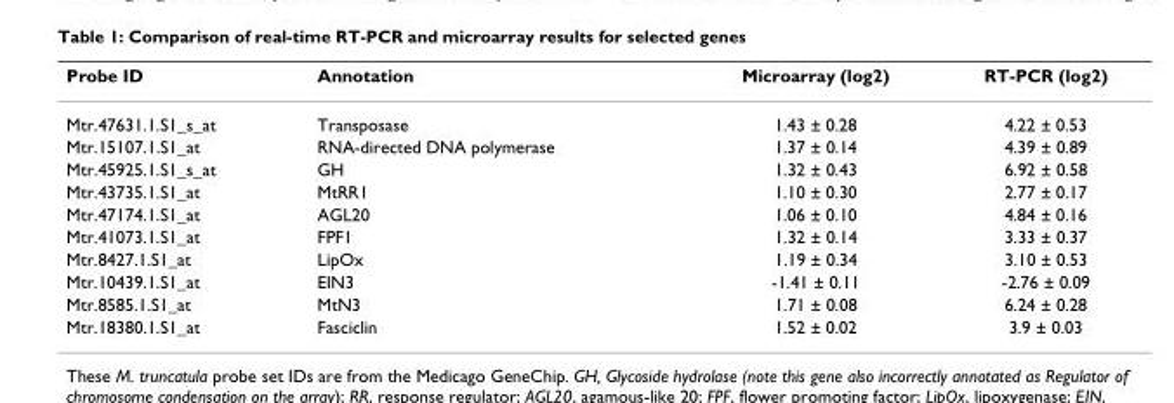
<table><thead><tr><td>Probe ID</td><td>Annotation</td><td>Microarray (log2)</td><td>RT-PCR (log2)</td></tr></thead><tbody><tr><td>Mtr.47631.1.S1_s_at</td><td>Transposase</td><td>1.43 ± 0.28</td><td>4.22 ± 0.53</td></tr><tr><td>Mtr.15107.1.S1_at</td><td>RNA-directed DNA polymerase</td><td>1.37 ± 0.14</td><td>4.39 ± 0.89</td></tr><tr><td>Mtr.45925.1.S1_s_at</td><td>GH</td><td>1.32 ± 0.43</td><td>6.92 ± 0.58</td></tr><tr><td>Mtr.43735.1.S1_at</td><td>MtRR1</td><td>1.10 ± 0.30</td><td>2.77 ± 0.17</td></tr><tr><td>Mtr.47174.1.S1_at</td><td>AGL20</td><td>1.06 ± 0.10</td><td>4.84 ± 0.16</td></tr><tr><td>Mtr.41073.1.S1_at</td><td>FPF1</td><td>1.32 ± 0.14</td><td>3.33 ± 0.37</td></tr><tr><td>Mtr.8427.1.S1_at</td><td>LipOx</td><td>1.19 ± 0.34</td><td>3.10 ± 0.53</td></tr><tr><td>Mtr.10439.1.S1_at</td><td>EIN3</td><td>-1.41 ± 0.11</td><td>-2.76 ± 0.09</td></tr><tr><td>Mtr.8585.1.S1_at</td><td>MtN3</td><td>1.71 ± 0.08</td><td>6.24 ± 0.28</td></tr><tr><td>Mtr.18380.1.S1_at</td><td>Fasciclin</td><td>1.52 ± 0.02</td><td>3.9 ± 0.03</td></tr></tbody></table>